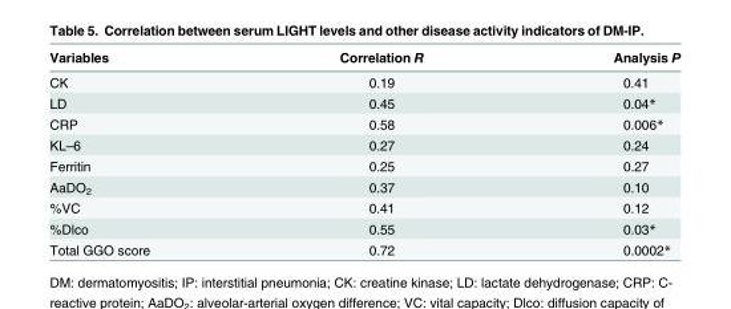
<table><thead><tr><td>Variables</td><td>Correlation R</td><td>Analysis P</td></tr></thead><tbody><tr><td>CK</td><td>0.19</td><td>0.41</td></tr><tr><td>LD</td><td>0.45</td><td>0.04*</td></tr><tr><td>CRP</td><td>0.58</td><td>0.006*</td></tr><tr><td>KL–6</td><td>0.27</td><td>0.24</td></tr><tr><td>Ferritin</td><td>0.25</td><td>0.27</td></tr><tr><td>AaDO<sub>2</sub></td><td>0.37</td><td>0.10</td></tr><tr><td>%VC</td><td>0.41</td><td>0.12</td></tr><tr><td>%Dlco</td><td>0.55</td><td>0.03*</td></tr><tr><td>Total GGO score</td><td>0.72</td><td>0.0002*</td></tr></tbody></table>